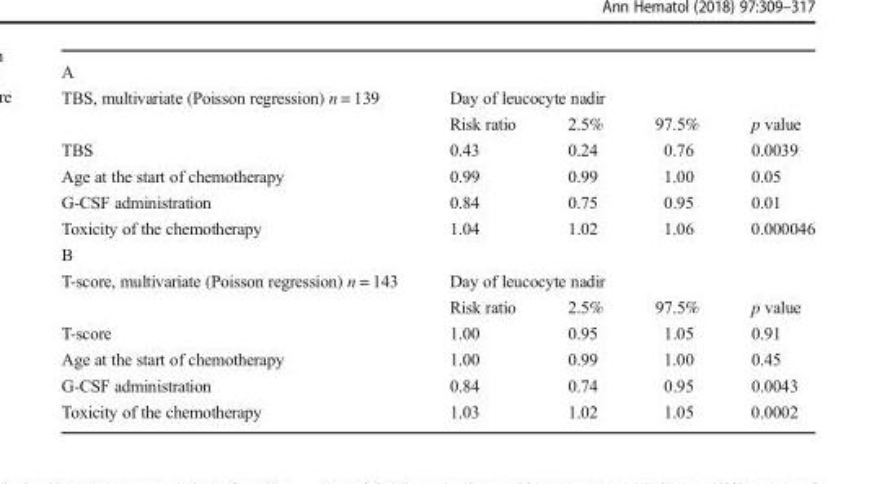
<table><tbody><tr><td colspan="5">A</td></tr><tr><td rowspan="2">TBS, multivariate (Poisson regression) n = 139</td><td colspan="4">Day of leucocyte nadir</td></tr><tr><td>Risk ratio</td><td>2.5%</td><td>97.5%</td><td>p value</td></tr><tr><td>TBS</td><td>0.43</td><td>0.24</td><td>0.76</td><td>0.0039</td></tr><tr><td>Age at the start of chemotherapy</td><td>0.99</td><td>0.99</td><td>1.00</td><td>0.05</td></tr><tr><td>G-CSF administration</td><td>0.84</td><td>0.75</td><td>0.95</td><td>0.01</td></tr><tr><td>Toxicity of the chemotherapy</td><td>1.04</td><td>1.02</td><td>1.06</td><td>0.000046</td></tr><tr><td colspan="5">B</td></tr><tr><td rowspan="2">T-score, multivariate (Poisson regression) n = 143</td><td colspan="4">Day of leucocyte nadir</td></tr><tr><td>Risk ratio</td><td>2.5%</td><td>97.5%</td><td>p value</td></tr><tr><td>T-score</td><td>1.00</td><td>0.95</td><td>1.05</td><td>0.91</td></tr><tr><td>Age at the start of chemotherapy</td><td>1.00</td><td>0.99</td><td>1.00</td><td>0.45</td></tr><tr><td>G-CSF administration</td><td>0.84</td><td>0.74</td><td>0.95</td><td>0.0043</td></tr><tr><td>Toxicity of the chemotherapy</td><td>1.03</td><td>1.02</td><td>1.05</td><td>0.0002</td></tr></tbody></table>